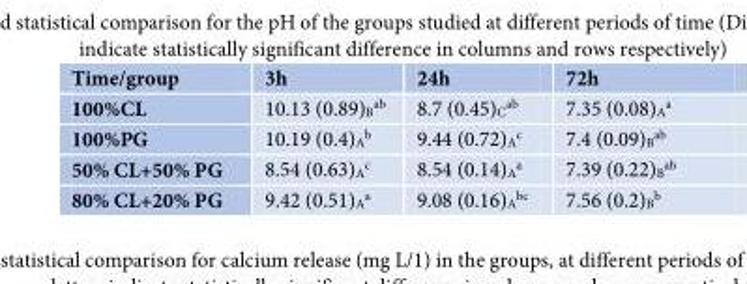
<table><thead><tr><td>Time/group</td><td>3h</td><td>24h</td><td>72h</td></tr></thead><tbody><tr><td>100%CL</td><td>10.13 (0.89)<sub>B</sub><sup>ab</sup></td><td>8.7 (0.45)<sub>C</sub><sup>ab</sup></td><td>7.35 (0.08)<sub>A</sub><sup>a</sup></td></tr><tr><td>100%PG</td><td>10.19 (0.4)<sub>A</sub><sup>b</sup></td><td>9.44 (0.72)<sub>A</sub><sup>c</sup></td><td>7.4 (0.09)<sub>B</sub><sup>ab</sup></td></tr><tr><td>50% CL+50% PG</td><td>8.54 (0.63)<sub>A</sub><sup>c</sup></td><td>8.54 (0.14)<sub>A</sub><sup>a</sup></td><td>7.39 (0.22)<sub>B</sub><sup>ab</sup></td></tr><tr><td>80% CL+20% PG</td><td>9.42 (0.51)<sub>A</sub><sup>a</sup></td><td>9.08 (0.16)<sub>A</sub><sup>bc</sup></td><td>7.56 (0.2)<sub>B</sub><sup>b</sup></td></tr></tbody></table>